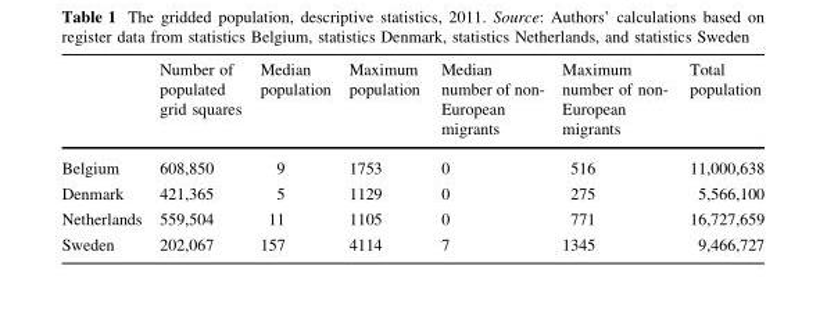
<table><thead><tr><td></td><td>Number of populated grid squares</td><td>Median population</td><td>Maximum population</td><td>Median number of non- European migrants</td><td>Maximum number of non- European migrants</td><td>Total population</td></tr></thead><tbody><tr><td>Belgium</td><td>608,850</td><td>9</td><td>1753</td><td>0</td><td>516</td><td>11,000,638</td></tr><tr><td>Denmark</td><td>421,365</td><td>5</td><td>1129</td><td>0</td><td>275</td><td>5,566,100</td></tr><tr><td>Netherlands</td><td>559,504</td><td>11</td><td>1105</td><td>0</td><td>771</td><td>16,727,659</td></tr><tr><td>Sweden</td><td>202,067</td><td>157</td><td>4114</td><td>7</td><td>1345</td><td>9,466,727</td></tr></tbody></table>